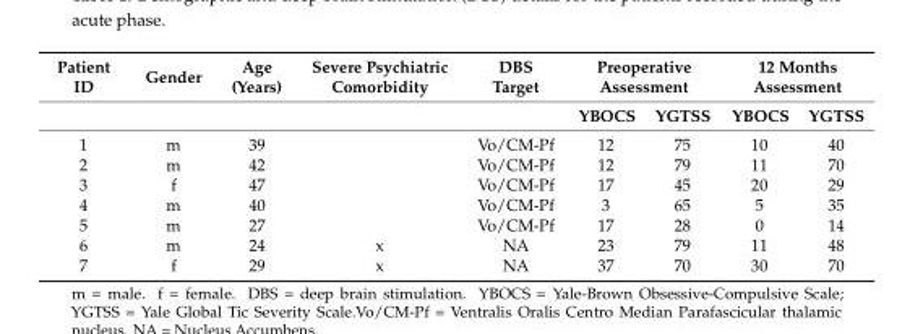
<table><thead><tr><td rowspan="2">Patient ID</td><td rowspan="2">Gender</td><td rowspan="2">Age (Years)</td><td rowspan="2">Severe Psychiatric Comorbidity</td><td rowspan="2">DBS Target</td><td colspan="2">Preoperative Assessment</td><td colspan="2">12 Months Assessment</td></tr><tr><td>YBOCS</td><td>YGTSS</td><td>YBOCS</td><td>YGTSS</td></tr></thead><tbody><tr><td>1</td><td>m</td><td>39</td><td></td><td>Vo/CM-Pf</td><td>12</td><td>75</td><td>10</td><td>40</td></tr><tr><td>2</td><td>m</td><td>42</td><td></td><td>Vo/CM-Pf</td><td>12</td><td>79</td><td>11</td><td>70</td></tr><tr><td>3</td><td>f</td><td>47</td><td></td><td>Vo/CM-Pf</td><td>17</td><td>45</td><td>20</td><td>29</td></tr><tr><td>4</td><td>m</td><td>40</td><td></td><td>Vo/CM-Pf</td><td>3</td><td>65</td><td>5</td><td>35</td></tr><tr><td>5</td><td>m</td><td>27</td><td></td><td>Vo/CM-Pf</td><td>17</td><td>28</td><td>0</td><td>14</td></tr><tr><td>6</td><td>m</td><td>24</td><td>x</td><td>NA</td><td>23</td><td>79</td><td>11</td><td>48</td></tr><tr><td>7</td><td>f</td><td>29</td><td>x</td><td>NA</td><td>37</td><td>70</td><td>30</td><td>70</td></tr></tbody></table>